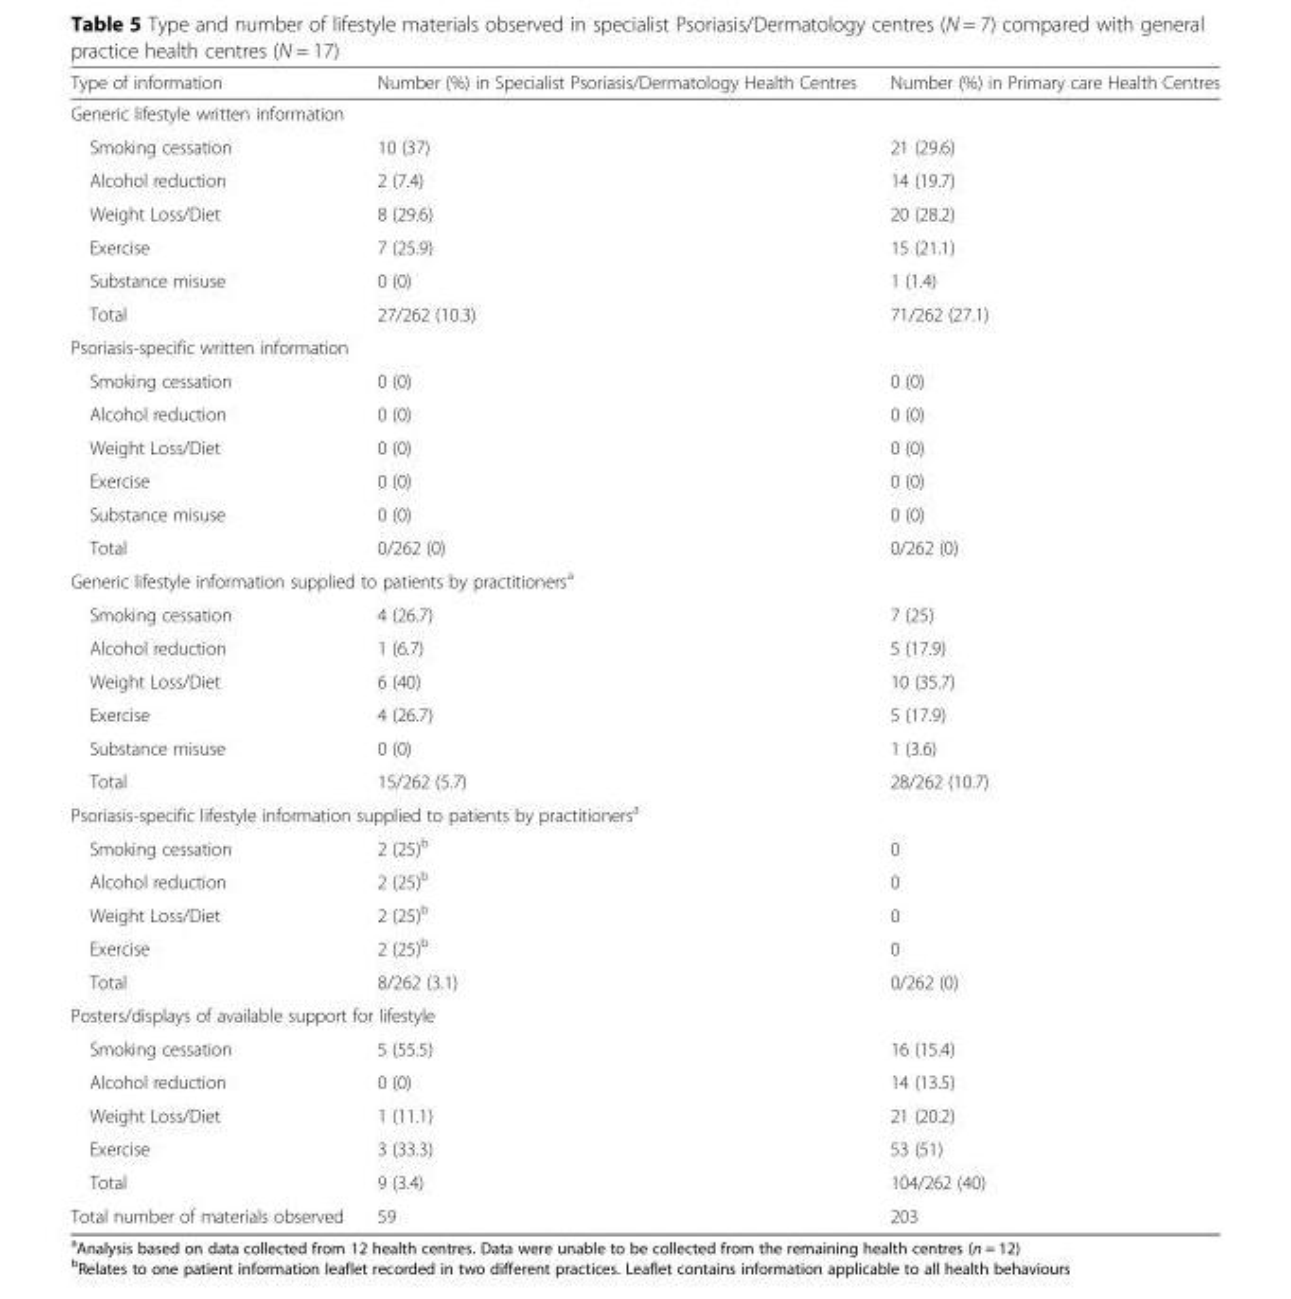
<table><thead><tr><td>Type of information</td><td>Number (%) in Specialist Psoriasis/Dermatology Health Centres</td><td>Number (%) in Primary care Health Centres</td></tr></thead><tbody><tr><td colspan="3">Generic lifestyle written information</td></tr><tr><td>Smoking cessation</td><td>10 (37)</td><td>21 (29.6)</td></tr><tr><td>Alcohol reduction</td><td>2 (7.4)</td><td>14 (19.7)</td></tr><tr><td>Weight Loss/Diet</td><td>8 (29.6)</td><td>20 (28.2)</td></tr><tr><td>Exercise</td><td>7 (25.9)</td><td>15 (21.1)</td></tr><tr><td>Substance misuse</td><td>0 (0)</td><td>1 (1.4)</td></tr><tr><td>Total</td><td>27/262 (10.3)</td><td>71/262 (27.1)</td></tr><tr><td colspan="3">Psoriasis-specific written information</td></tr><tr><td>Smoking cessation</td><td>0 (0)</td><td>0 (0)</td></tr><tr><td>Alcohol reduction</td><td>0 (0)</td><td>0 (0)</td></tr><tr><td>Weight Loss/Diet</td><td>0 (0)</td><td>0 (0)</td></tr><tr><td>Exercise</td><td>0 (0)</td><td>0 (0)</td></tr><tr><td>Substance misuse</td><td>0 (0)</td><td>0 (0)</td></tr><tr><td>Total</td><td>0/262 (0)</td><td>0/262 (0)</td></tr><tr><td colspan="3">Generic lifestyle information supplied to patients by practitioners<sup>a</sup></td></tr><tr><td>Smoking cessation</td><td>4 (26.7)</td><td>7 (25)</td></tr><tr><td>Alcohol reduction</td><td>1 (6.7)</td><td>5 (17.9)</td></tr><tr><td>Weight Loss/Diet</td><td>6 (40)</td><td>10 (35.7)</td></tr><tr><td>Exercise</td><td>4 (26.7)</td><td>5 (17.9)</td></tr><tr><td>Substance misuse</td><td>0 (0)</td><td>1 (3.6)</td></tr><tr><td>Total</td><td>15/262 (5.7)</td><td>28/262 (10.7)</td></tr><tr><td colspan="3">Psoriasis-specific lifestyle information supplied to patients by practitioners<sup>a</sup></td></tr><tr><td>Smoking cessation</td><td>2 (25)<sup>b</sup></td><td>0</td></tr><tr><td>Alcohol reduction</td><td>2 (25)<sup>b</sup></td><td>0</td></tr><tr><td>Weight Loss/Diet</td><td>2 (25)<sup>b</sup></td><td>0</td></tr><tr><td>Exercise</td><td>2 (25)<sup>b</sup></td><td>0</td></tr><tr><td>Total</td><td>8/262 (3.1)</td><td>0/262 (0)</td></tr><tr><td colspan="3">Posters/displays of available support for lifestyle</td></tr><tr><td>Smoking cessation</td><td>5 (55.5)</td><td>16 (15.4)</td></tr><tr><td>Alcohol reduction</td><td>0 (0)</td><td>14 (13.5)</td></tr><tr><td>Weight Loss/Diet</td><td>1 (11.1)</td><td>21 (20.2)</td></tr><tr><td>Exercise</td><td>3 (33.3)</td><td>53 (51)</td></tr><tr><td>Total</td><td>9 (3.4)</td><td>104/262 (40)</td></tr><tr><td>Total number of materials observed</td><td>59</td><td>203</td></tr></tbody></table>